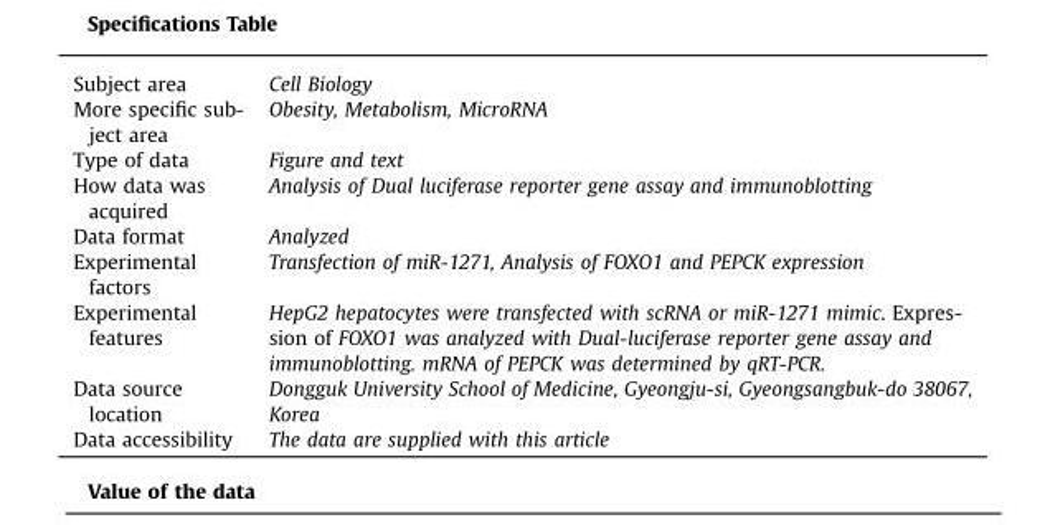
<table><tbody><tr><td>Subject area</td><td>Cell Biology</td></tr><tr><td>More specific sub- ject area</td><td>Obesity, Metabolism, MicroRNA</td></tr><tr><td>Type of data</td><td>Figure and text</td></tr><tr><td>How data was acquired</td><td>Analysis of Dual luciferase reporter gene assay and immunoblotting</td></tr><tr><td>Data format</td><td>Analyzed</td></tr><tr><td>Experimental factors</td><td>Transfection of miR-1271, Analysis of FOXO1 and PEPCK expression</td></tr><tr><td>Experimental features</td><td>HepG2 hepatocytes were transfected with scRNA or miR-1271 mimic. Expres- sion of FOXO1 was analyzed with Dual-luciferase reporter gene assay and immunoblotting. mRNA of PEPCK was determined by qRT-PCR.</td></tr><tr><td>Data source location</td><td>Dongguk University School of Medicine, Gyeongju-si, Gyeongsangbuk-do 38067, Korea</td></tr><tr><td>Data accessibility</td><td>The data are supplied with this article</td></tr></tbody></table>